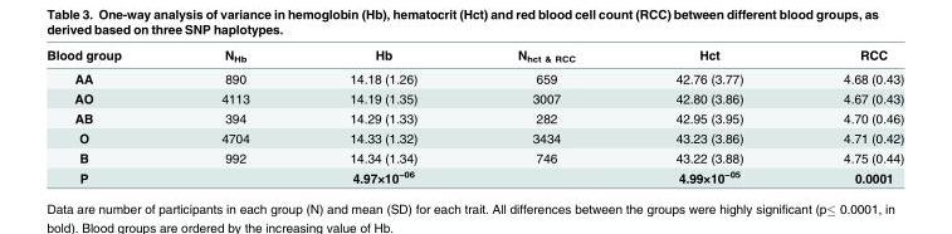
<table><thead><tr><td>Blood group</td><td>N<sub>Hb</sub></td><td>Hb</td><td>N<sub>hct &amp; RCC</sub></td><td>Hct</td><td>RCC</td></tr></thead><tbody><tr><td>AA</td><td>890</td><td>14.18 (1.26)</td><td>659</td><td>42.76 (3.77)</td><td>4.68 (0.43)</td></tr><tr><td>AO</td><td>4113</td><td>14.19 (1.35)</td><td>3007</td><td>42.80 (3.86)</td><td>4.67 (0.43)</td></tr><tr><td>AB</td><td>394</td><td>14.29 (1.33)</td><td>282</td><td>42.95 (3.95)</td><td>4.70 (0.46)</td></tr><tr><td>O</td><td>4704</td><td>14.33 (1.32)</td><td>3434</td><td>43.23 (3.86)</td><td>4.71 (0.42)</td></tr><tr><td>B</td><td>992</td><td>14.34 (1.34)</td><td>746</td><td>43.22 (3.88)</td><td>4.75 (0.44)</td></tr><tr><td>P</td><td></td><td>4.97×10<sup>−06</sup></td><td></td><td>4.99×10<sup>−05</sup></td><td>0.0001</td></tr></tbody></table>